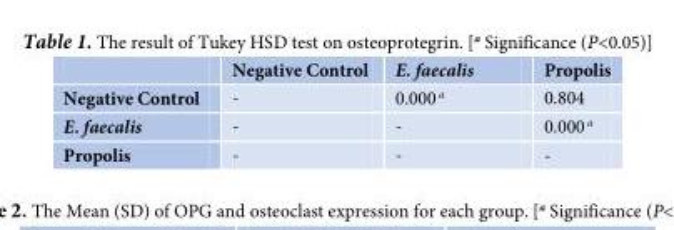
<table><thead><tr><td></td><td>Negative Control</td><td>E. faecalis</td><td>Propolis</td></tr></thead><tbody><tr><td>Negative Control</td><td>-</td><td>0.000 <sup>a</sup></td><td>0.804</td></tr><tr><td>E. faecalis</td><td>-</td><td>-</td><td>0.000 <sup>a</sup></td></tr><tr><td>Propolis</td><td>-</td><td>-</td><td>-</td></tr></tbody></table>